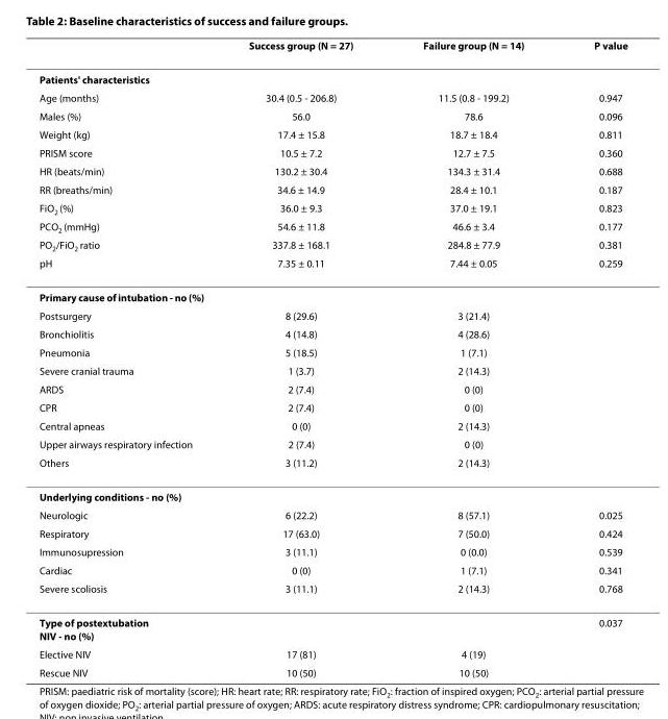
<table><thead><tr><td></td><td>Success group (N = 27)</td><td>Failure group (N = 14)</td><td>P value</td></tr></thead><tbody><tr><td colspan="4">Patients&#x27; characteristics</td></tr><tr><td>Age (months)</td><td>30.4 (0.5 - 206.8)</td><td>11.5 (0.8 - 199.2)</td><td>0.947</td></tr><tr><td>Males (%)</td><td>56.0</td><td>78.6</td><td>0.096</td></tr><tr><td>Weight (kg)</td><td>17.4 ± 15.8</td><td>18.7 ± 18.4</td><td>0.811</td></tr><tr><td>PRISM score</td><td>10.5 ± 7.2</td><td>12.7 ± 7.5</td><td>0.360</td></tr><tr><td>HR (beats/min)</td><td>130.2 ± 30.4</td><td>134.3 ± 31.4</td><td>0.688</td></tr><tr><td>RR (breaths/min)</td><td>34.6 ± 14.9</td><td>28.4 ± 10.1</td><td>0.187</td></tr><tr><td>FiO<sub>2</sub> (%)</td><td>36.0 ± 9.3</td><td>37.0 ± 19.1</td><td>0.823</td></tr><tr><td>PCO<sub>2</sub> (mmHg)</td><td>54.6 ± 11.8</td><td>46.6 ± 3.4</td><td>0.177</td></tr><tr><td>PO<sub>2</sub>/FiO<sub>2</sub> ratio</td><td>337.8 ± 168.1</td><td>284.8 ± 77.9</td><td>0.381</td></tr><tr><td>pH</td><td>7.35 ± 0.11</td><td>7.44 ± 0.05</td><td>0.259</td></tr><tr><td colspan="4">Primary cause of intubation - no (%)</td></tr><tr><td>Postsurgery</td><td>8 (29.6)</td><td>3 (21.4)</td><td></td></tr><tr><td>Bronchiolitis</td><td>4 (14.8)</td><td>4 (28.6)</td><td></td></tr><tr><td>Pneumonia</td><td>5 (18.5)</td><td>1 (7.1)</td><td></td></tr><tr><td>Severe cranial trauma</td><td>1 (3.7)</td><td>2 (14.3)</td><td></td></tr><tr><td>ARDS</td><td>2 (7.4)</td><td>0 (0)</td><td></td></tr><tr><td>CPR</td><td>2 (7.4)</td><td>0 (0)</td><td></td></tr><tr><td>Central apneas</td><td>0 (0)</td><td>2 (14.3)</td><td></td></tr><tr><td>Upper airways respiratory infection</td><td>2 (7.4)</td><td>0 (0)</td><td></td></tr><tr><td>Others</td><td>3 (11.2)</td><td>2 (14.3)</td><td></td></tr><tr><td colspan="4">Underlying conditions - no (%)</td></tr><tr><td>Neurologic</td><td>6 (22.2)</td><td>8 (57.1)</td><td>0.025</td></tr><tr><td>Respiratory</td><td>17 (63.0)</td><td>7 (50.0)</td><td>0.424</td></tr><tr><td>Immunosupression</td><td>3 (11.1)</td><td>0 (0.0)</td><td>0.539</td></tr><tr><td>Cardiac</td><td>0 (0)</td><td>1 (7.1)</td><td>0.341</td></tr><tr><td>Severe scoliosis</td><td>3 (11.1)</td><td>2 (14.3)</td><td>0.768</td></tr><tr><td>Type of postextubation NIV - no (%)</td><td></td><td></td><td>0.037</td></tr><tr><td>Elective NIV</td><td>17 (81)</td><td>4 (19)</td><td></td></tr><tr><td>Rescue NIV</td><td>10 (50)</td><td>10 (50)</td><td></td></tr></tbody></table>